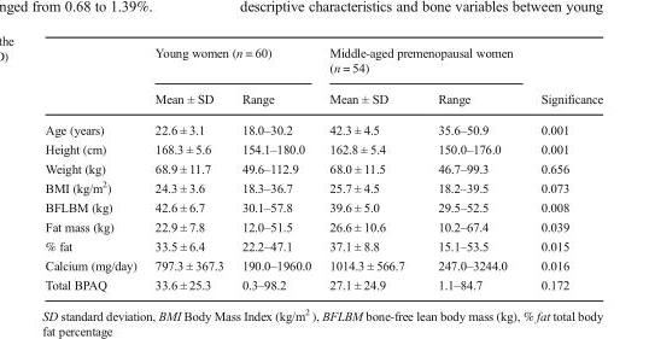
<table><thead><tr><td rowspan="2"></td><td colspan="2">Young women (n = 60)</td><td colspan="2">Middle-aged premenopausal women (n = 54)</td><td rowspan="2">Significance</td></tr><tr><td>Mean ± SD</td><td>Range</td><td>Mean ± SD</td><td>Range</td></tr></thead><tbody><tr><td>Age (years)</td><td>22.6 ± 3.1</td><td>18.0–30.2</td><td>42.3 ± 4.5</td><td>35.6–50.9</td><td>0.001</td></tr><tr><td>Height (cm)</td><td>168.3 ± 5.6</td><td>154.1–180.0</td><td>162.8 ± 5.4</td><td>150.0–176.0</td><td>0.001</td></tr><tr><td>Weight (kg)</td><td>68.9 ± 11.7</td><td>49.6–112.9</td><td>68.0 ± 11.5</td><td>46.7–99.3</td><td>0.656</td></tr><tr><td>BMI (kg/m<sup>2</sup>)</td><td>24.3 ± 3.6</td><td>18.3–36.7</td><td>25.7 ± 4.5</td><td>18.2–39.5</td><td>0.073</td></tr><tr><td>BFLBM (kg)</td><td>42.6 ± 6.7</td><td>30.1–57.8</td><td>39.6 ± 5.0</td><td>29.5–52.5</td><td>0.008</td></tr><tr><td>Fat mass (kg)</td><td>22.9 ± 7.8</td><td>12.0–51.5</td><td>26.6 ± 10.6</td><td>10.2–67.4</td><td>0.039</td></tr><tr><td>% fat</td><td>33.5 ± 6.4</td><td>22.2–47.1</td><td>37.1 ± 8.8</td><td>15.1–53.5</td><td>0.015</td></tr><tr><td>Calcium (mg/day)</td><td>797.3 ± 367.3</td><td>190.0–1960.0</td><td>1014.3 ± 566.7</td><td>247.0–3244.0</td><td>0.016</td></tr><tr><td>Total BPAQ</td><td>33.6 ± 25.3</td><td>0.3–98.2</td><td>27.1 ± 24.9</td><td>1.1–84.7</td><td>0.172</td></tr></tbody></table>